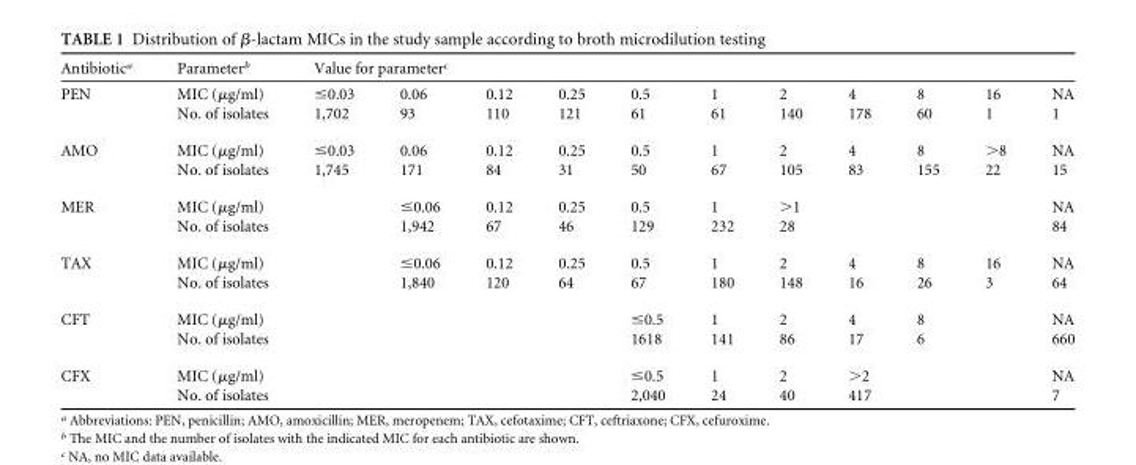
<table><thead><tr><td rowspan="2">Antibiotic<sup>a</sup> PEN</td><td rowspan="2">Parameter<sup>b</sup> MIC (µg/ml)</td><td colspan="11">Value for parameter<sup>c</sup></td></tr><tr><td>≤0.03</td><td>0.06</td><td>0.12</td><td>0.25</td><td>0.5</td><td>1</td><td>2</td><td>4</td><td>8</td><td>16</td><td>NA</td></tr></thead><tbody><tr><td></td><td>No. of isolates</td><td>1,702</td><td>93</td><td>110</td><td>121</td><td>61</td><td>61</td><td>140</td><td>178</td><td>60</td><td>1</td><td>1</td></tr><tr><td rowspan="2">AMO</td><td>MIC (µg/ml)</td><td>≤0.03</td><td>0.06</td><td>0.12</td><td>0.25</td><td>0.5</td><td>1</td><td>2</td><td>4</td><td>8</td><td>&gt;8</td><td>NA</td></tr><tr><td>No. of isolates</td><td>1,745</td><td>171</td><td>84</td><td>31</td><td>50</td><td>67</td><td>105</td><td>83</td><td>155</td><td>22</td><td>15</td></tr><tr><td rowspan="2">MER</td><td>MIC (µg/ml)</td><td></td><td>≤0.06</td><td>0.12</td><td>0.25</td><td>0.5</td><td>1</td><td>&gt;1</td><td></td><td></td><td></td><td>NA</td></tr><tr><td>No. of isolates</td><td></td><td>1,942</td><td>67</td><td>46</td><td>129</td><td>232</td><td>28</td><td></td><td></td><td></td><td>84</td></tr><tr><td rowspan="2">TAX</td><td>MIC (µg/ml)</td><td></td><td>≤0.06</td><td>0.12</td><td>0.25</td><td>0.5</td><td>1</td><td>2</td><td>4</td><td>8</td><td>16</td><td>NA</td></tr><tr><td>No. of isolates</td><td></td><td>1,840</td><td>120</td><td>64</td><td>67</td><td>180</td><td>148</td><td>16</td><td>26</td><td>3</td><td>64</td></tr><tr><td rowspan="2">CFT</td><td>MIC (µg/ml)</td><td></td><td></td><td></td><td></td><td>≤0.5</td><td>1</td><td>2</td><td>4</td><td>8</td><td></td><td>NA</td></tr><tr><td>No. of isolates</td><td></td><td></td><td></td><td></td><td>1618</td><td>141</td><td>86</td><td>17</td><td>6</td><td></td><td>660</td></tr><tr><td rowspan="2">CFX</td><td>MIC (µg/ml)</td><td></td><td></td><td></td><td></td><td>≤0.5</td><td>1</td><td>2</td><td>&gt;2</td><td></td><td></td><td>NA</td></tr><tr><td>No. of isolates</td><td></td><td></td><td></td><td></td><td>2,040</td><td>24</td><td>40</td><td>417</td><td></td><td></td><td>7</td></tr></tbody></table>